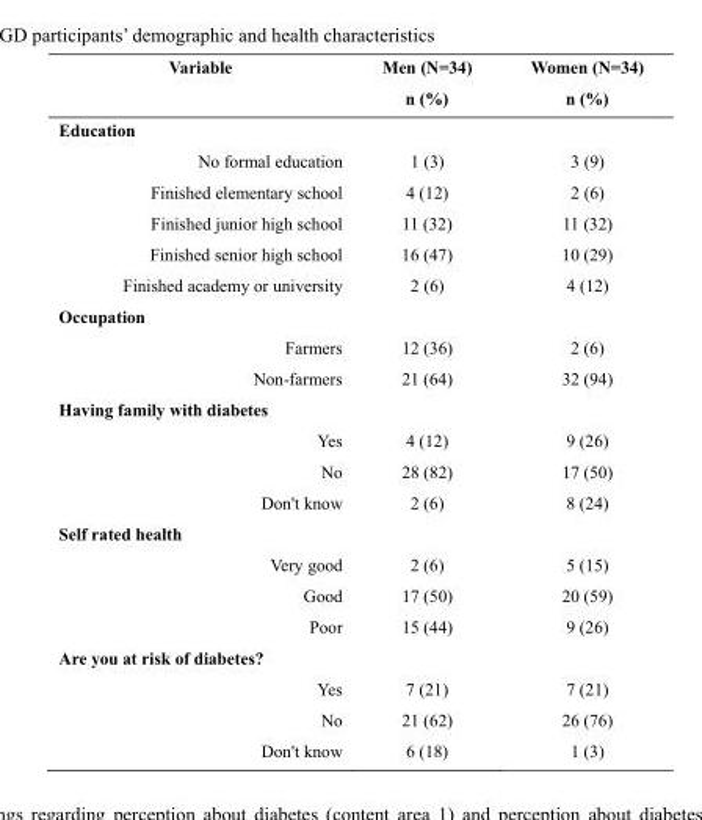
<table><thead><tr><td>Variable</td><td>Men (N=34) n (%)</td><td>Women (N=34) n (%)</td></tr></thead><tbody><tr><td colspan="3">Education</td></tr><tr><td>No formal education</td><td>1 (3)</td><td>3 (9)</td></tr><tr><td>Finished elementary school</td><td>4 (12)</td><td>2 (6)</td></tr><tr><td>Finished junior high school</td><td>11 (32)</td><td>11 (32)</td></tr><tr><td>Finished senior high school</td><td>16 (47)</td><td>10 (29)</td></tr><tr><td>Finished academy or university</td><td>2 (6)</td><td>4 (12)</td></tr><tr><td colspan="3">Occupation</td></tr><tr><td>Farmers</td><td>12 (36)</td><td>2 (6)</td></tr><tr><td>Non-farmers</td><td>21 (64)</td><td>32 (94)</td></tr><tr><td colspan="3">Having family with diabetes</td></tr><tr><td>Yes</td><td>4 (12)</td><td>9 (26)</td></tr><tr><td>No</td><td>28 (82)</td><td>17 (50)</td></tr><tr><td>Don&#x27;t know</td><td>2 (6)</td><td>8 (24)</td></tr><tr><td colspan="3">Self rated health</td></tr><tr><td>Very good</td><td>2 (6)</td><td>5 (15)</td></tr><tr><td>Good</td><td>17 (50)</td><td>20 (59)</td></tr><tr><td>Poor</td><td>15 (44)</td><td>9 (26)</td></tr><tr><td colspan="3">Are you at risk of diabetes?</td></tr><tr><td>Yes</td><td>7 (21)</td><td>7 (21)</td></tr><tr><td>No</td><td>21 (62)</td><td>26 (76)</td></tr><tr><td>Don&#x27;t know</td><td>6 (18)</td><td>1 (3)</td></tr></tbody></table>